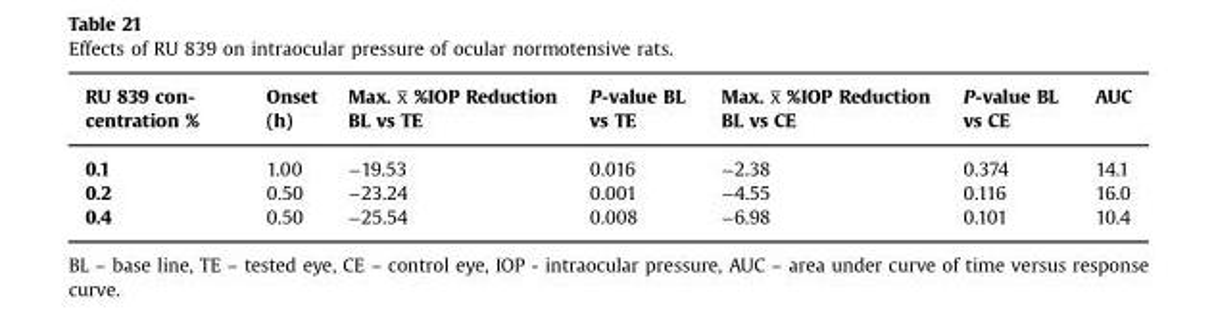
<table><thead><tr><td>RU 839 con- centration %</td><td>Onset (h)</td><td>Max. x̅ %IOP Reduction BL vs TE</td><td>P-value BL vs TE</td><td>Max. x̅ %IOP Reduction BL vs CE</td><td>P-value BL vs CE</td><td>AUC</td></tr></thead><tbody><tr><td>0.1</td><td>1.00</td><td>−19.53</td><td>0.016</td><td>−2.38</td><td>0.374</td><td>14.1</td></tr><tr><td>0.2</td><td>0.50</td><td>−23.24</td><td>0.001</td><td>−4.55</td><td>0.116</td><td>16.0</td></tr><tr><td>0.4</td><td>0.50</td><td>−25.54</td><td>0.008</td><td>−6.98</td><td>0.101</td><td>10.4</td></tr></tbody></table>